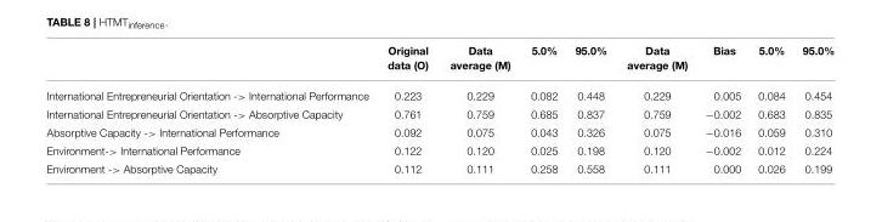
<table><thead><tr><td></td><td>Original data (O)</td><td>Data average (M)</td><td>5.0%</td><td>95.0%</td><td>Data average (M)</td><td>Bias</td><td>5.0%</td><td>95.0%</td></tr></thead><tbody><tr><td>International Entrepreneurial Orientation -&gt; International Performance</td><td>0.223</td><td>0.229</td><td>0.082</td><td>0.448</td><td>0.229</td><td>0.005</td><td>0.084</td><td>0.454</td></tr><tr><td>International Entrepreneurial Orientation -&gt; Absorptive Capacity</td><td>0.761</td><td>0.759</td><td>0.685</td><td>0.837</td><td>0.759</td><td>−0.002</td><td>0.683</td><td>0.835</td></tr><tr><td>Absorptive Capacity -&gt; International Performance</td><td>0.092</td><td>0.075</td><td>0.043</td><td>0.326</td><td>0.075</td><td>−0.016</td><td>0.059</td><td>0.310</td></tr><tr><td>Environment-&gt; International Performance</td><td>0.122</td><td>0.120</td><td>0.025</td><td>0.198</td><td>0.120</td><td>−0.002</td><td>0.012</td><td>0.224</td></tr><tr><td>Environment -&gt; Absorptive Capacity</td><td>0.112</td><td>0.111</td><td>0.258</td><td>0.558</td><td>0.111</td><td>0.000</td><td>0.026</td><td>0.199</td></tr></tbody></table>